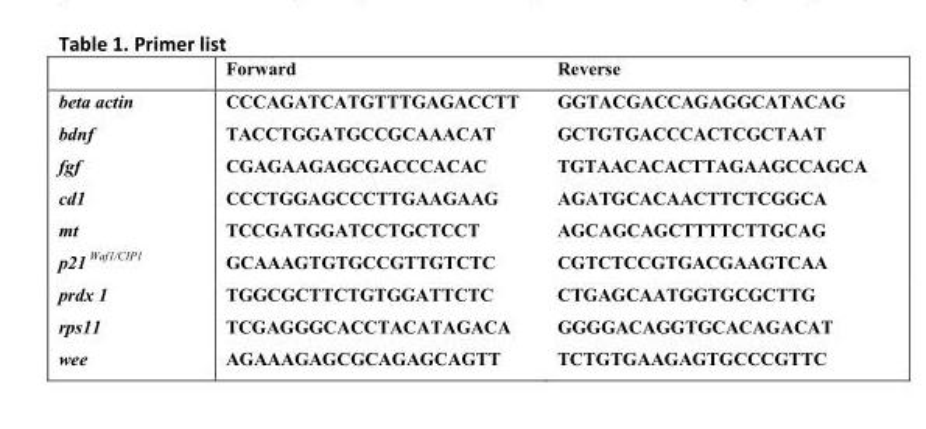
<table><thead><tr><td></td><td>Forward</td><td>Reverse</td></tr></thead><tbody><tr><td>beta actin</td><td>CCCAGATCATGTTTGAGACCTT</td><td>GGTACGACCAGAGGCATACAG</td></tr><tr><td>bdnf</td><td>TACCTGGATGCCGCAAACAT</td><td>GCTGTGACCCACTCGCTAAT</td></tr><tr><td>fgf</td><td>CGAGAAGAGCGACCCACAC</td><td>TGTAACACACTTAGAAGCCAGCA</td></tr><tr><td>cd1</td><td>CCCTGGAGCCCTTGAAGAAG</td><td>AGATGCACAACTTCTCGGCA</td></tr><tr><td>mt</td><td>TCCGATGGATCCTGCTCCT</td><td>AGCAGCAGCTTTTCTTGCAG</td></tr><tr><td>p21 <sup>Waf1/CIP1</sup></td><td>GCAAAGTGTGCCGTTGTCTC</td><td>CGTCTCCGTGACGAAGTCAA</td></tr><tr><td>prdx 1</td><td>TGGCGCTTCTGTGGATTCTC</td><td>CTGAGCAATGGTGCGCTTG</td></tr><tr><td>rps11</td><td>TCGAGGGCACCTACATAGACA</td><td>GGGGACAGGTGCACAGACAT</td></tr><tr><td>wee</td><td>AGAAAGAGCGCAGAGCAGTT</td><td>TCTGTGAAGAGTGCCCGTTC</td></tr></tbody></table>